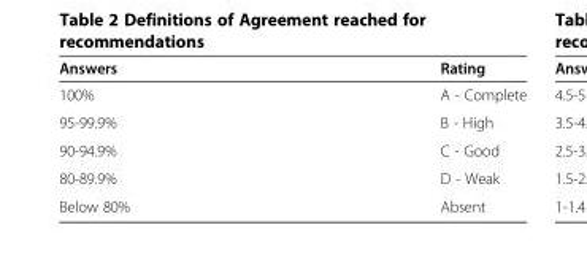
<table><thead><tr><td>Answers</td><td>Rating</td></tr></thead><tbody><tr><td>100%</td><td>A - Complete</td></tr><tr><td>95-99.9%</td><td>B - High</td></tr><tr><td>90-94.9%</td><td>C - Good</td></tr><tr><td>80-89.9%</td><td>D - Weak</td></tr><tr><td>Below 80%</td><td>Absent</td></tr></tbody></table>